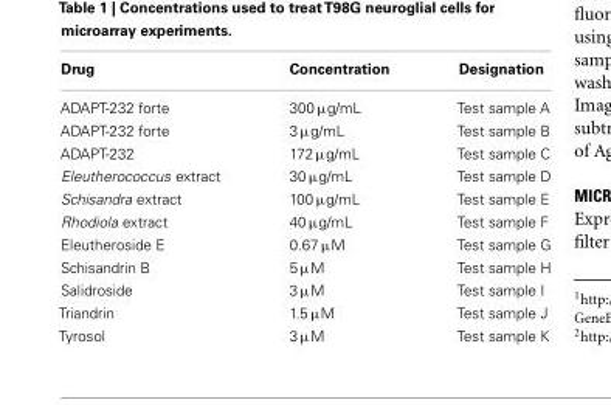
<table><thead><tr><td>Drug</td><td>Concentration</td><td>Designation</td></tr></thead><tbody><tr><td>ADAPT-232 forte</td><td>300 µg/mL</td><td>Test sample A</td></tr><tr><td>ADAPT-232 forte</td><td>3 µg/mL</td><td>Test sample B</td></tr><tr><td>ADAPT-232</td><td>172 µg/mL</td><td>Test sample C</td></tr><tr><td>Eleutherococcus extract</td><td>30 µg/mL</td><td>Test sample D</td></tr><tr><td>Schisandra extract</td><td>100 µg/mL</td><td>Test sample E</td></tr><tr><td>Rhodiola extract</td><td>40 µg/mL</td><td>Test sample F</td></tr><tr><td>Eleutheroside E</td><td>0.67 µM</td><td>Test sample G</td></tr><tr><td>Schisandrin B</td><td>5 µM</td><td>Test sample H</td></tr><tr><td>Salidroside</td><td>3 µM</td><td>Test sample I</td></tr><tr><td>Triandrin</td><td>1.5 µM</td><td>Test sample J</td></tr><tr><td>Tyrosol</td><td>3 µM</td><td>Test sample K</td></tr></tbody></table>